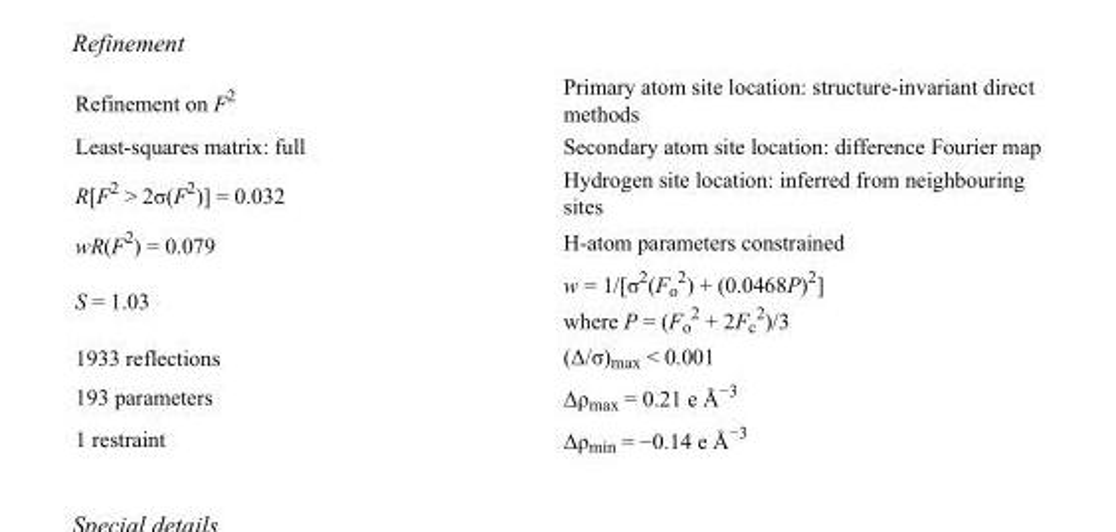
<table><tbody><tr><td>Refinement on F<sup>2</sup></td><td>Primary atom site location: structure-invariant direct methods</td></tr><tr><td>Least-squares matrix: full</td><td>Secondary atom site location: difference Fourier map</td></tr><tr><td>R[F<sup>2</sup> &gt; 2σ(F<sup>2</sup>)] = 0.032</td><td>Hydrogen site location: inferred from neighbouring sites</td></tr><tr><td>wR(F<sup>2</sup>) = 0.079</td><td>H-atom parameters constrained</td></tr><tr><td>S = 1.03</td><td>w = 1/[σ<sup>2</sup>(F<sub>o</sub> <sup>2</sup>) + (0.0468P)<sup>2</sup>] where P = (F<sub>o</sub> <sup>2</sup> + 2F<sub>c</sub> <sup>2</sup>)/3</td></tr><tr><td>1933 reflections</td><td>(Δ/σ)<sub>max</sub> &lt; 0.001</td></tr><tr><td>193 parameters</td><td>Δρ<sub>max</sub> = 0.21 e Å<sup>−3</sup></td></tr><tr><td>1 restraint</td><td>Δρ<sub>min</sub> = −0.14 e Å<sup>−3</sup></td></tr></tbody></table>